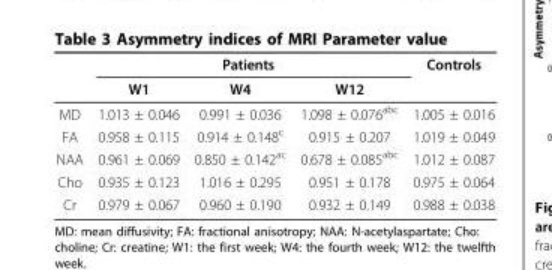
<table><thead><tr><td rowspan="2"></td><td colspan="3">Patients</td><td rowspan="2">Controls</td></tr><tr><td>W1</td><td>W4</td><td>W12</td></tr></thead><tbody><tr><td>MD</td><td>1.013 ± 0.046</td><td>0.991 ± 0.036</td><td>1.098 ± 0.076<sup>abc</sup></td><td>1.005 ± 0.016</td></tr><tr><td>FA</td><td>0.958 ± 0.115</td><td>0.914 ± 0.148<sup>c</sup></td><td>0.915 ± 0.207</td><td>1.019 ± 0.049</td></tr><tr><td>NAA</td><td>0.961 ± 0.069</td><td>0.850 ± 0.142<sup>ac</sup></td><td>0.678 ± 0.085<sup>abc</sup></td><td>1.012 ± 0.087</td></tr><tr><td>Cho</td><td>0.935 ± 0.123</td><td>1.016 ± 0.295</td><td>0.951 ± 0.178</td><td>0.975 ± 0.064</td></tr><tr><td>Cr</td><td>0.979 ± 0.067</td><td>0.960 ± 0.190</td><td>0.932 ± 0.149</td><td>0.988 ± 0.038</td></tr></tbody></table>